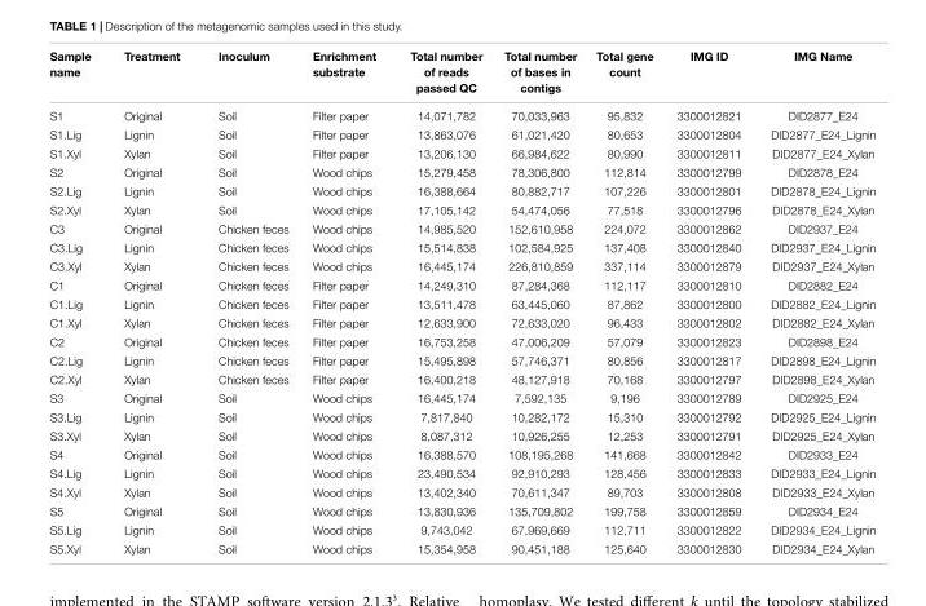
<table><thead><tr><td>Sample name</td><td>Treatment</td><td>Inoculum</td><td>Enrichment substrate</td><td>Total number of reads passed QC</td><td>Total number of bases in contigs</td><td>Total gene count</td><td>IMG ID</td><td>IMG Name</td></tr></thead><tbody><tr><td>S1</td><td>Original</td><td>Soil</td><td>Filter paper</td><td>14,071,782</td><td>70,033,963</td><td>95,832</td><td>3300012821</td><td>DID2877_E24</td></tr><tr><td>S1.Lig</td><td>Lignin</td><td>Soil</td><td>Filter paper</td><td>13,863,076</td><td>61,021,420</td><td>80,653</td><td>3300012804</td><td>DID2877_E24_Lignin</td></tr><tr><td>S1.Xyl</td><td>Xylan</td><td>Soil</td><td>Filter paper</td><td>13,206,130</td><td>66,984,622</td><td>80,990</td><td>3300012811</td><td>DID2877_E24_Xylan</td></tr><tr><td>S2</td><td>Original</td><td>Soil</td><td>Wood chips</td><td>15,279,458</td><td>78,306,800</td><td>112,814</td><td>3300012799</td><td>DID2878_E24</td></tr><tr><td>S2.Lig</td><td>Lignin</td><td>Soil</td><td>Wood chips</td><td>16,388,664</td><td>80,882,717</td><td>107,226</td><td>3300012801</td><td>DID2878_E24_Lignin</td></tr><tr><td>S2.Xyl</td><td>Xylan</td><td>Soil</td><td>Wood chips</td><td>17,105,142</td><td>54,474,056</td><td>77,518</td><td>3300012796</td><td>DID2878_E24_Xylan</td></tr><tr><td>C3</td><td>Original</td><td>Chicken feces</td><td>Wood chips</td><td>14,985,520</td><td>152,610,958</td><td>224,072</td><td>3300012862</td><td>DID2937_E24</td></tr><tr><td>C3.Lig</td><td>Lignin</td><td>Chicken feces</td><td>Wood chips</td><td>15,514,838</td><td>102,584,925</td><td>137,408</td><td>3300012840</td><td>DID2937_E24_Lignin</td></tr><tr><td>C3.Xyl</td><td>Xylan</td><td>Chicken feces</td><td>Wood chips</td><td>16,445,174</td><td>226,810,859</td><td>337,114</td><td>3300012879</td><td>DID2937_E24_Xylan</td></tr><tr><td>C1</td><td>Original</td><td>Chicken feces</td><td>Filter paper</td><td>14,249,310</td><td>87,284,368</td><td>112,117</td><td>3300012810</td><td>DID2882_E24</td></tr><tr><td>C1.Lig</td><td>Lignin</td><td>Chicken feces</td><td>Filter paper</td><td>13,511,478</td><td>63,445,060</td><td>87,862</td><td>3300012800</td><td>DID2882_E24_Lignin</td></tr><tr><td>C1.Xyl</td><td>Xylan</td><td>Chicken feces</td><td>Filter paper</td><td>12,633,900</td><td>72,633,020</td><td>96,433</td><td>3300012802</td><td>DID2882_E24_Xylan</td></tr><tr><td>C2</td><td>Original</td><td>Chicken feces</td><td>Filter paper</td><td>16,753,258</td><td>47,006,209</td><td>57,079</td><td>3300012823</td><td>DID2898_E24</td></tr><tr><td>C2.Lig</td><td>Lignin</td><td>Chicken feces</td><td>Filter paper</td><td>15,495,898</td><td>57,746,371</td><td>80,856</td><td>3300012817</td><td>DID2898_E24_Lignin</td></tr><tr><td>C2.Xyl</td><td>Xylan</td><td>Chicken feces</td><td>Filter paper</td><td>16,400,218</td><td>48,127,918</td><td>70,168</td><td>3300012797</td><td>DID2898_E24_Xylan</td></tr><tr><td>S3</td><td>Original</td><td>Soil</td><td>Wood chips</td><td>16,445,174</td><td>7,592,135</td><td>9,196</td><td>3300012789</td><td>DID2925_E24</td></tr><tr><td>S3.Lig</td><td>Lignin</td><td>Soil</td><td>Wood chips</td><td>7,817,840</td><td>10,282,172</td><td>15,310</td><td>3300012792</td><td>DID2925_E24_Lignin</td></tr><tr><td>S3.Xyl</td><td>Xylan</td><td>Soil</td><td>Wood chips</td><td>8,087,312</td><td>10,926,255</td><td>12,253</td><td>3300012791</td><td>DID2925_E24_Xylan</td></tr><tr><td>S4</td><td>Original</td><td>Soil</td><td>Wood chips</td><td>16,388,570</td><td>108,195,268</td><td>141,668</td><td>3300012842</td><td>DID2933_E24</td></tr><tr><td>S4.Lig</td><td>Lignin</td><td>Soil</td><td>Wood chips</td><td>23,490,534</td><td>92,910,293</td><td>128,456</td><td>3300012833</td><td>DID2933_E24_Lignin</td></tr><tr><td>S4.Xyl</td><td>Xylan</td><td>Soil</td><td>Wood chips</td><td>13,402,340</td><td>70,611,347</td><td>89,703</td><td>3300012808</td><td>DID2933_E24_Xylan</td></tr><tr><td>S5</td><td>Original</td><td>Soil</td><td>Wood chips</td><td>13,830,936</td><td>135,709,802</td><td>199,758</td><td>3300012859</td><td>DID2934_E24</td></tr><tr><td>S5.Lig</td><td>Lignin</td><td>Soil</td><td>Wood chips</td><td>9,743,042</td><td>67,969,669</td><td>112,711</td><td>3300012822</td><td>DID2934_E24_Lignin</td></tr><tr><td>S5.Xyl</td><td>Xylan</td><td>Soil</td><td>Wood chips</td><td>15,354,958</td><td>90,451,188</td><td>125,640</td><td>3300012830</td><td>DID2934_E24_Xylan</td></tr></tbody></table>